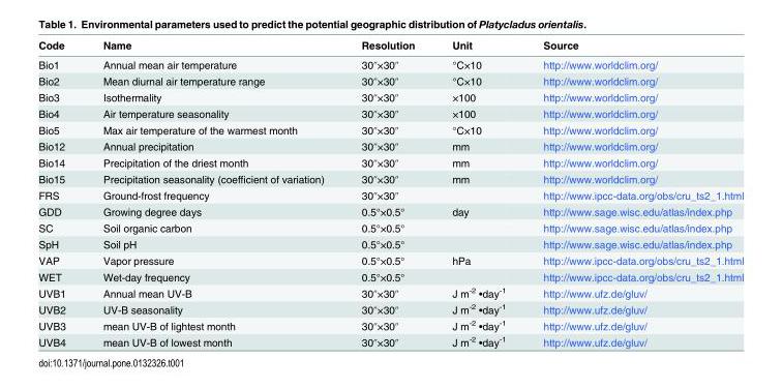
<table><thead><tr><td>Code</td><td>Name</td><td>Resolution</td><td>Unit</td><td>Source</td></tr></thead><tbody><tr><td>Bio1</td><td>Annual mean air temperature</td><td>30″×30″</td><td>°C×10</td><td>http://www.worldclim.org/</td></tr><tr><td>Bio2</td><td>Mean diurnal air temperature range</td><td>30″×30″</td><td>°C×10</td><td>http://www.worldclim.org/</td></tr><tr><td>Bio3</td><td>Isothermality</td><td>30″×30″</td><td>×100</td><td>http://www.worldclim.org/</td></tr><tr><td>Bio4</td><td>Air temperature seasonality</td><td>30″×30″</td><td>×100</td><td>http://www.worldclim.org/</td></tr><tr><td>Bio5</td><td>Max air temperature of the warmest month</td><td>30″×30″</td><td>°C×10</td><td>http://www.worldclim.org/</td></tr><tr><td>Bio12</td><td>Annual precipitation</td><td>30″×30″</td><td>mm</td><td>http://www.worldclim.org/</td></tr><tr><td>Bio14</td><td>Precipitation of the driest month</td><td>30″×30″</td><td>mm</td><td>http://www.worldclim.org/</td></tr><tr><td>Bio15</td><td>Precipitation seasonality (coefficient of variation)</td><td>30″×30″</td><td>mm</td><td>http://www.worldclim.org/</td></tr><tr><td>FRS</td><td>Ground-frost frequency</td><td>30″×30″</td><td></td><td>http://www.ipcc-data.org/obs/cru_ts2_1.html</td></tr><tr><td>GDD</td><td>Growing degree days</td><td>0.5°×0.5°</td><td>day</td><td>http://www.sage.wisc.edu/atlas/index.php</td></tr><tr><td>SC</td><td>Soil organic carbon</td><td>0.5°×0.5°</td><td></td><td>http://www.sage.wisc.edu/atlas/index.php</td></tr><tr><td>SpH</td><td>Soil pH</td><td>0.5°×0.5°</td><td></td><td>http://www.sage.wisc.edu/atlas/index.php</td></tr><tr><td>VAP</td><td>Vapor pressure</td><td>0.5°×0.5°</td><td>hPa</td><td>http://www.ipcc-data.org/obs/cru_ts2_1.html</td></tr><tr><td>WET</td><td>Wet-day frequency</td><td>0.5°×0.5°</td><td></td><td>http://www.ipcc-data.org/obs/cru_ts2_1.html</td></tr><tr><td>UVB1</td><td>Annual mean UV-B</td><td>30″×30″</td><td>J m<sup>-2</sup> •day<sup>-1</sup></td><td>http://www.ufz.de/gluv/</td></tr><tr><td>UVB2</td><td>UV-B seasonality</td><td>30″×30″</td><td>J m<sup>-2</sup> •day<sup>-1</sup></td><td>http://www.ufz.de/gluv/</td></tr><tr><td>UVB3</td><td>mean UV-B of lightest month</td><td>30″×30″</td><td>J m<sup>-2</sup> •day<sup>-1</sup></td><td>http://www.ufz.de/gluv/</td></tr><tr><td>UVB4</td><td>mean UV-B of lowest month</td><td>30″×30″</td><td>J m<sup>-2</sup> •day<sup>-1</sup></td><td>http://www.ufz.de/gluv/</td></tr></tbody></table>